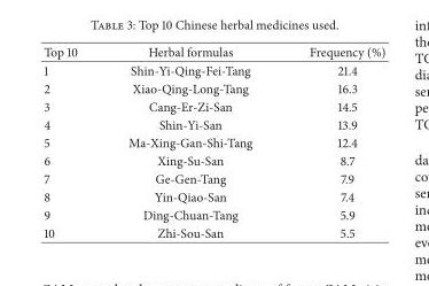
<table><thead><tr><td>Top 10</td><td>Herbal formulas</td><td>Frequency (%)</td></tr></thead><tbody><tr><td>1</td><td>Shin-Yi-Qing-Fei-Tang</td><td>21.4</td></tr><tr><td>2</td><td>Xiao-Qing-Long-Tang</td><td>16.3</td></tr><tr><td>3</td><td>Cang-Er-Zi-San</td><td>14.5</td></tr><tr><td>4</td><td>Shin-Yi-San</td><td>13.9</td></tr><tr><td>5</td><td>Ma-Xing-Gan-Shi-Tang</td><td>12.4</td></tr><tr><td>6</td><td>Xing-Su-San</td><td>8.7</td></tr><tr><td>7</td><td>Ge-Gen-Tang</td><td>7.9</td></tr><tr><td>8</td><td>Yin-Qiao-San</td><td>7.4</td></tr><tr><td>9</td><td>Ding-Chuan-Tang</td><td>5.9</td></tr><tr><td>10</td><td>Zhi-Sou-San</td><td>5.5</td></tr></tbody></table>